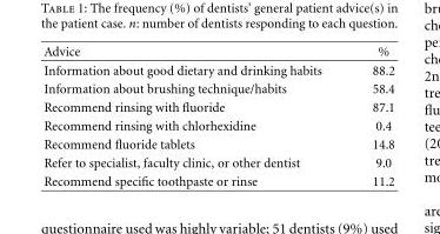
<table><thead><tr><td>Advice</td><td>%</td></tr></thead><tbody><tr><td>Information about good dietary and drinking habits</td><td>88.2</td></tr><tr><td>Information about brushing technique/habits</td><td>58.4</td></tr><tr><td>Recommend rinsing with fluoride</td><td>87.1</td></tr><tr><td>Recommend rinsing with chlorhexidine</td><td>0.4</td></tr><tr><td>Recommend fluoride tablets</td><td>14.8</td></tr><tr><td>Refer to specialist, faculty clinic, or other dentist</td><td>9.0</td></tr><tr><td>Recommend specific toothpaste or rinse</td><td>11.2</td></tr></tbody></table>